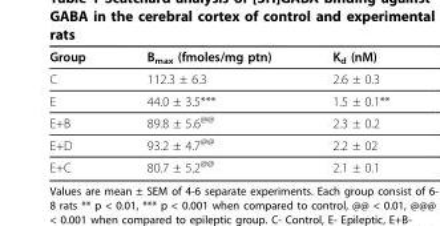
<table><thead><tr><td>Group</td><td>B<sub>max</sub> (fmoles/mg ptn)</td><td>K<sub>d</sub> (nM)</td></tr></thead><tbody><tr><td>C</td><td>112.3 ± 6.3</td><td>2.6 ± 0.3</td></tr><tr><td>E</td><td>44.0 ± 3.5***</td><td>1.5 ± 0.1**</td></tr><tr><td>E+B</td><td>89.8 ± 5.6<sup>@@</sup></td><td>2.3 ± 0.2</td></tr><tr><td>E+D</td><td>93.2 ± 4.7<sup>@@</sup></td><td>2.2 ± 02</td></tr><tr><td>E+C</td><td>80.7 ± 5.2<sup>@@</sup></td><td>2.1 ± 0.1</td></tr></tbody></table>